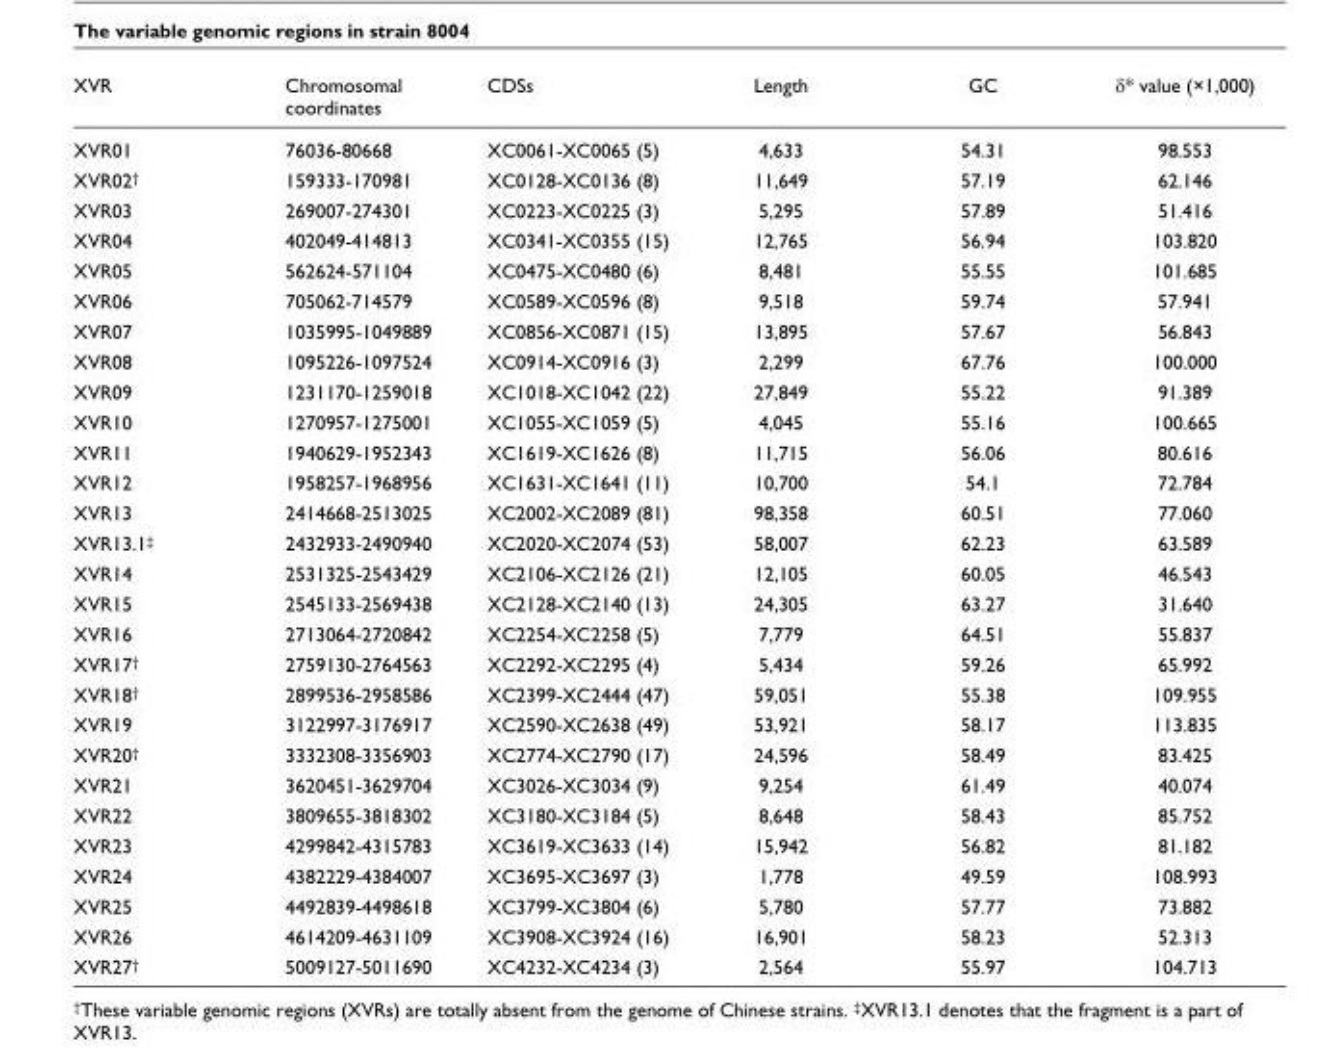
<table><thead><tr><td>XVR</td><td>Chromosomal coordinates</td><td>CDSs</td><td>Length</td><td>GC</td><td>δ* value (×1,000)</td></tr></thead><tbody><tr><td>XVR01</td><td>76036-80668</td><td>XC0061-XC0065 (5)</td><td>4,633</td><td>54.31</td><td>98.553</td></tr><tr><td>XVR02<sup>†</sup></td><td>159333-170981</td><td>XC0128-XC0136 (8)</td><td>11,649</td><td>57.19</td><td>62.146</td></tr><tr><td>XVR03</td><td>269007-274301</td><td>XC0223-XC0225 (3)</td><td>5,295</td><td>57.89</td><td>51.416</td></tr><tr><td>XVR04</td><td>402049-414813</td><td>XC0341-XC0355 (15)</td><td>12,765</td><td>56.94</td><td>103.820</td></tr><tr><td>XVR05</td><td>562624-571104</td><td>XC0475-XC0480 (6)</td><td>8,481</td><td>55.55</td><td>101.685</td></tr><tr><td>XVR06</td><td>705062-714579</td><td>XC0589-XC0596 (8)</td><td>9,518</td><td>59.74</td><td>57.941</td></tr><tr><td>XVR07</td><td>1035995-1049889</td><td>XC0856-XC0871 (15)</td><td>13,895</td><td>57.67</td><td>56.843</td></tr><tr><td>XVR08</td><td>1095226-1097524</td><td>XC0914-XC0916 (3)</td><td>2,299</td><td>67.76</td><td>100.000</td></tr><tr><td>XVR09</td><td>1231170-1259018</td><td>XC1018-XC1042 (22)</td><td>27,849</td><td>55.22</td><td>91.389</td></tr><tr><td>XVR10</td><td>1270957-1275001</td><td>XC1055-XC1059 (5)</td><td>4,045</td><td>55.16</td><td>100.665</td></tr><tr><td>XVR11</td><td>1940629-1952343</td><td>XC1619-XC1626 (8)</td><td>11,715</td><td>56.06</td><td>80.616</td></tr><tr><td>XVR12</td><td>1958257-1968956</td><td>XC1631-XC1641 (11)</td><td>10,700</td><td>54.1</td><td>72.784</td></tr><tr><td>XVR13</td><td>2414668-2513025</td><td>XC2002-XC2089 (81)</td><td>98,358</td><td>60.51</td><td>77.060</td></tr><tr><td>XVR13.1<sup>‡</sup></td><td>2432933-2490940</td><td>XC2020-XC2074 (53)</td><td>58,007</td><td>62.23</td><td>63.589</td></tr><tr><td>XVR14</td><td>2531325-2543429</td><td>XC2106-XC2126 (21)</td><td>12,105</td><td>60.05</td><td>46.543</td></tr><tr><td>XVR15</td><td>2545133-2569438</td><td>XC2128-XC2140 (13)</td><td>24,305</td><td>63.27</td><td>31.640</td></tr><tr><td>XVR16</td><td>2713064-2720842</td><td>XC2254-XC2258 (5)</td><td>7,779</td><td>64.51</td><td>55.837</td></tr><tr><td>XVR17<sup>†</sup></td><td>2759130-2764563</td><td>XC2292-XC2295 (4)</td><td>5,434</td><td>59.26</td><td>65.992</td></tr><tr><td>XVR18<sup>†</sup></td><td>2899536-2958586</td><td>XC2399-XC2444 (47)</td><td>59,051</td><td>55.38</td><td>109.955</td></tr><tr><td>XVR19</td><td>3122997-3176917</td><td>XC2590-XC2638 (49)</td><td>53,921</td><td>58.17</td><td>113.835</td></tr><tr><td>XVR20<sup>†</sup></td><td>3332308-3356903</td><td>XC2774-XC2790 (17)</td><td>24,596</td><td>58.49</td><td>83.425</td></tr><tr><td>XVR21</td><td>3620451-3629704</td><td>XC3026-XC3034 (9)</td><td>9,254</td><td>61.49</td><td>40.074</td></tr><tr><td>XVR22</td><td>3809655-3818302</td><td>XC3180-XC3184 (5)</td><td>8,648</td><td>58.43</td><td>85.752</td></tr><tr><td>XVR23</td><td>4299842-4315783</td><td>XC3619-XC3633 (14)</td><td>15,942</td><td>56.82</td><td>81.182</td></tr><tr><td>XVR24</td><td>4382229-4384007</td><td>XC3695-XC3697 (3)</td><td>1,778</td><td>49.59</td><td>108.993</td></tr><tr><td>XVR25</td><td>4492839-4498618</td><td>XC3799-XC3804 (6)</td><td>5,780</td><td>57.77</td><td>73.882</td></tr><tr><td>XVR26</td><td>4614209-4631109</td><td>XC3908-XC3924 (16)</td><td>16,901</td><td>58.23</td><td>52.313</td></tr><tr><td>XVR27<sup>†</sup></td><td>5009127-5011690</td><td>XC4232-XC4234 (3)</td><td>2,564</td><td>55.97</td><td>104.713</td></tr></tbody></table>